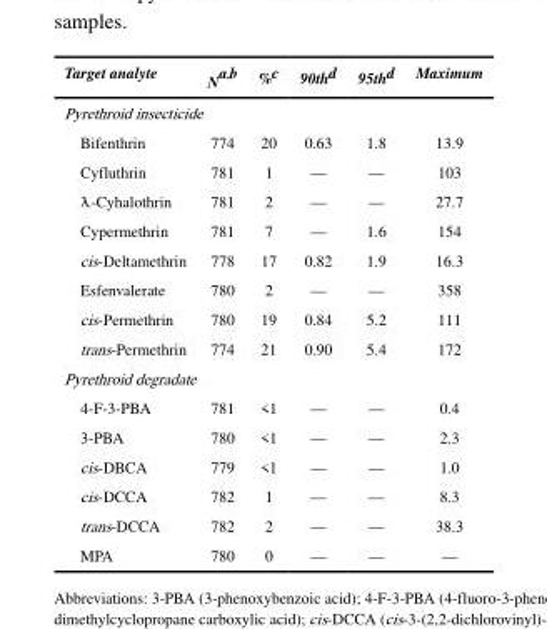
<table><thead><tr><td>Target analyte</td><td>N<sup>a,b</sup></td><td>%<sup>c</sup></td><td>90th<sup>d</sup></td><td>95th<sup>d</sup></td><td>Maximum</td></tr></thead><tbody><tr><td colspan="6">Pyrethroid insecticide</td></tr><tr><td>Bifenthrin</td><td>774</td><td>20</td><td>0.63</td><td>1.8</td><td>13.9</td></tr><tr><td>Cyfluthrin</td><td>781</td><td>1</td><td>—</td><td>—</td><td>103</td></tr><tr><td>λ-Cyhalothrin</td><td>781</td><td>2</td><td>—</td><td>—</td><td>27.7</td></tr><tr><td>Cypermethrin</td><td>781</td><td>7</td><td>—</td><td>1.6</td><td>154</td></tr><tr><td>cis-Deltamethrin</td><td>778</td><td>17</td><td>0.82</td><td>1.9</td><td>16.3</td></tr><tr><td>Esfenvalerate</td><td>780</td><td>2</td><td>—</td><td>—</td><td>358</td></tr><tr><td>cis-Permethrin</td><td>780</td><td>19</td><td>0.84</td><td>5.2</td><td>111</td></tr><tr><td>trans-Permethrin</td><td>774</td><td>21</td><td>0.90</td><td>5.4</td><td>172</td></tr><tr><td colspan="6">Pyrethroid degradate</td></tr><tr><td>4-F-3-PBA</td><td>781</td><td>&lt;1</td><td>—</td><td>—</td><td>0.4</td></tr><tr><td>3-PBA</td><td>780</td><td>&lt;1</td><td>—</td><td>—</td><td>2.3</td></tr><tr><td>cis-DBCA</td><td>779</td><td>&lt;1</td><td>—</td><td>—</td><td>1.0</td></tr><tr><td>cis-DCCA</td><td>782</td><td>1</td><td>—</td><td>—</td><td>8.3</td></tr><tr><td>trans-DCCA</td><td>782</td><td>2</td><td>—</td><td>—</td><td>38.3</td></tr><tr><td>MPA</td><td>780</td><td>0</td><td>—</td><td>—</td><td>—</td></tr></tbody></table>